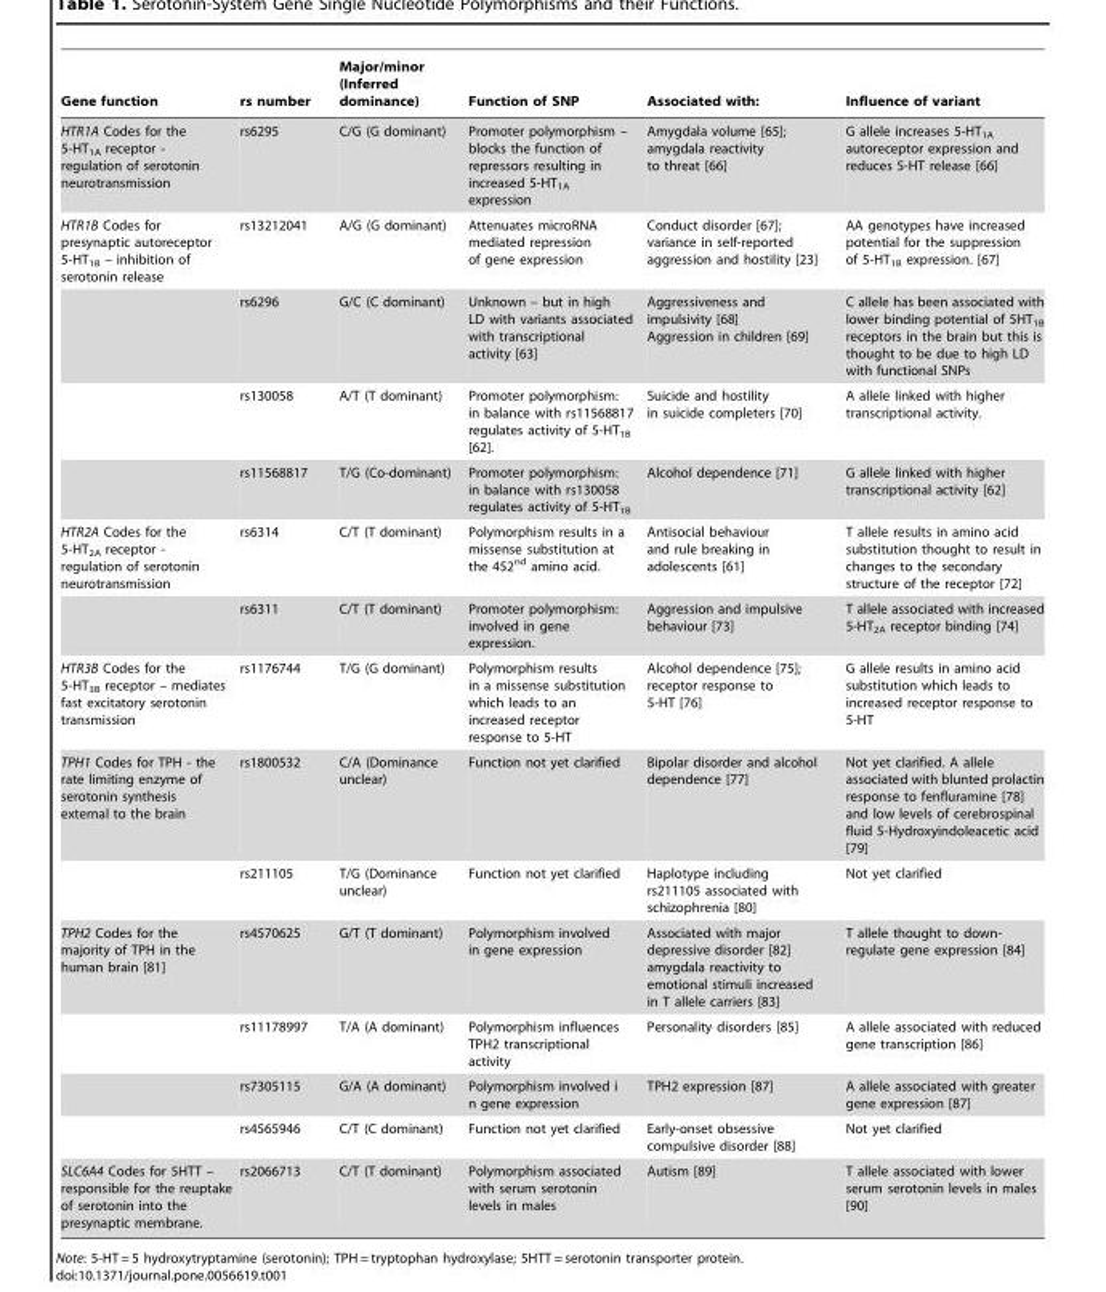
<table><thead><tr><td>Gene function</td><td>rs number</td><td>Major/minor (Inferred dominance)</td><td>Function of SNP</td><td>Associated with:</td><td>Influence of variant</td></tr></thead><tbody><tr><td>HTR1A Codes for the 5-HT<sub>1A</sub> receptor - regulation of serotonin neurotransmission</td><td>rs6295</td><td>C/G (G dominant)</td><td>Promoter polymorphism – blocks the function of repressors resulting in increased 5-HT<sub>1A</sub> expression</td><td>Amygdala volume [65]; amygdala reactivity to threat [66]</td><td>G allele increases 5-HT<sub>1A</sub> autoreceptor expression and reduces 5-HT release [66]</td></tr><tr><td rowspan="4">HTR1B Codes for presynaptic autoreceptor 5-HT<sub>1B</sub> – inhibition of serotonin release</td><td>rs13212041</td><td>A/G (G dominant)</td><td>Attenuates microRNA mediated repression of gene expression</td><td>Conduct disorder [67]; variance in self-reported aggression and hostility [23]</td><td>AA genotypes have increased potential for the suppression of 5-HT<sub>1B</sub> expression. [67]</td></tr><tr><td>rs6296</td><td>G/C (C dominant)</td><td>Unknown – but in high LD with variants associated with transcriptional activity [63]</td><td>Aggressiveness and impulsivity [68] Aggression in children [69]</td><td>C allele has been associated with lower binding potential of 5HT<sub>1B</sub> receptors in the brain but this is thought to be due to high LD with functional SNPs</td></tr><tr><td>rs130058</td><td>A/T (T dominant)</td><td>Promoter polymorphism: in balance with rs11568817 regulates activity of 5-HT<sub>1B</sub> [62].</td><td>Suicide and hostility in suicide completers [70]</td><td>A allele linked with higher transcriptional activity.</td></tr><tr><td>rs11568817</td><td>T/G (Co-dominant)</td><td>Promoter polymorphism: in balance with rs130058 regulates activity of 5-HT<sub>1B</sub></td><td>Alcohol dependence [71]</td><td>G allele linked with higher transcriptional activity [62]</td></tr><tr><td rowspan="2">HTR2A Codes for the 5-HT<sub>2A</sub> receptor - regulation of serotonin neurotransmission</td><td>rs6314</td><td>C/T (T dominant)</td><td>Polymorphism results in a missense substitution at the 452<sup>nd</sup> amino acid.</td><td>Antisocial behaviour and rule breaking in adolescents [61]</td><td>T allele results in amino acid substitution thought to result in changes to the secondary structure of the receptor [72]</td></tr><tr><td>rs6311</td><td>C/T (T dominant)</td><td>Promoter polymorphism: involved in gene expression.</td><td>Aggression and impulsive behaviour [73]</td><td>T allele associated with increased 5-HT<sub>2A</sub> receptor binding [74]</td></tr><tr><td>HTR3B Codes for the 5-HT<sub>3B</sub> receptor – mediates fast excitatory serotonin transmission</td><td>rs1176744</td><td>T/G (G dominant)</td><td>Polymorphism results in a missense substitution which leads to an increased receptor response to 5-HT</td><td>Alcohol dependence [75]; receptor response to 5-HT [76]</td><td>G allele results in amino acid substitution which leads to increased receptor response to 5-HT</td></tr><tr><td rowspan="2">TPH1 Codes for TPH - the rate limiting enzyme of serotonin synthesis external to the brain</td><td>rs1800532</td><td>C/A (Dominance unclear)</td><td>Function not yet clarified</td><td>Bipolar disorder and alcohol dependence [77]</td><td>Not yet clarified. A allele associated with blunted prolactin response to fenfluramine [78] and low levels of cerebrospinal fluid 5-Hydroxyindoleacetic acid [79]</td></tr><tr><td>rs211105</td><td>T/G (Dominance unclear)</td><td>Function not yet clarified</td><td>Haplotype including rs211105 associated with schizophrenia [80]</td><td>Not yet clarified</td></tr><tr><td rowspan="4">TPH2 Codes for the majority of TPH in the human brain [81]</td><td>rs4570625</td><td>G/T (T dominant)</td><td>Polymorphism involved in gene expression</td><td>Associated with major depressive disorder [82] amygdala reactivity to emotional stimuli increased in T allele carriers [83]</td><td>T allele thought to down- regulate gene expression [84]</td></tr><tr><td>rs11178997</td><td>T/A (A dominant)</td><td>Polymorphism influences TPH2 transcriptional activity</td><td>Personality disorders [85]</td><td>A allele associated with reduced gene transcription [86]</td></tr><tr><td>rs7305115</td><td>G/A (A dominant)</td><td>Polymorphism involved i n gene expression</td><td>TPH2 expression [87]</td><td>A allele associated with greater gene expression [87]</td></tr><tr><td>rs4565946</td><td>C/T (C dominant)</td><td>Function not yet clarified</td><td>Early-onset obsessive compulsive disorder [88]</td><td>Not yet clarified</td></tr><tr><td>SLC6A4 Codes for 5HTT – responsible for the reuptake of serotonin into the presynaptic membrane.</td><td>rs2066713</td><td>C/T (T dominant)</td><td>Polymorphism associated with serum serotonin levels in males</td><td>Autism [89]</td><td>T allele associated with lower serum serotonin levels in males [90]</td></tr></tbody></table>